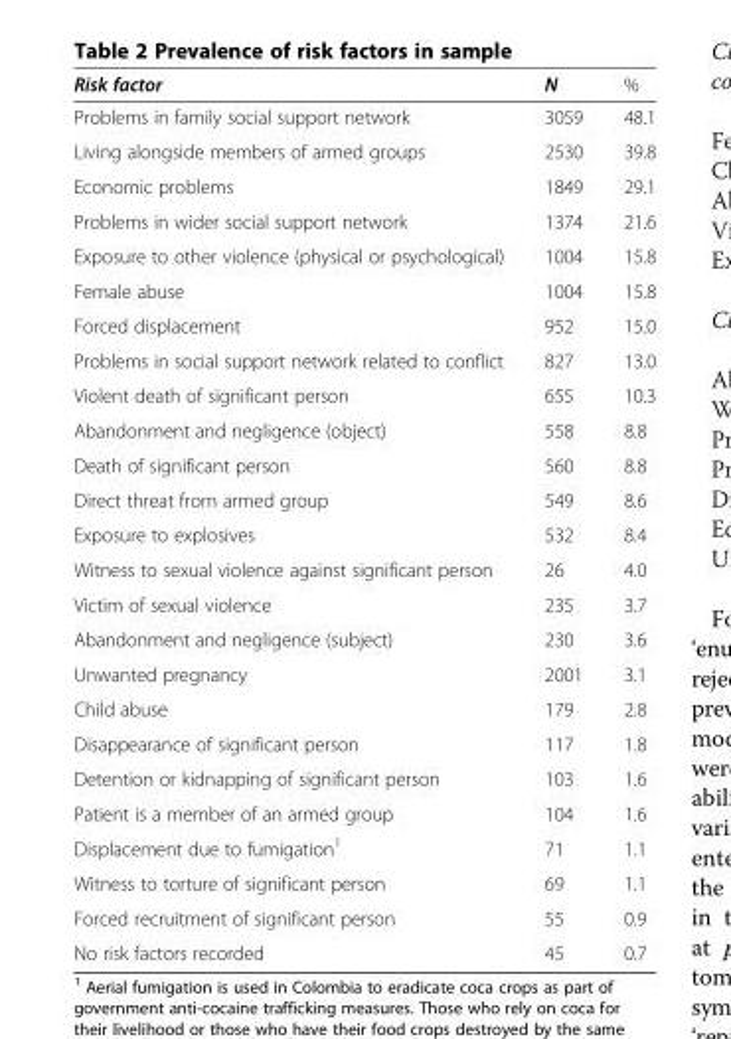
<table><thead><tr><td>Risk factor</td><td>N</td><td>%</td></tr></thead><tbody><tr><td>Problems in family social support network</td><td>3059</td><td>48.1</td></tr><tr><td>Living alongside members of armed groups</td><td>2530</td><td>39.8</td></tr><tr><td>Economic problems</td><td>1849</td><td>29.1</td></tr><tr><td>Problems in wider social support network</td><td>1374</td><td>21.6</td></tr><tr><td>Exposure to other violence (physical or psychological)</td><td>1004</td><td>15.8</td></tr><tr><td>Female abuse</td><td>1004</td><td>15.8</td></tr><tr><td>Forced displacement</td><td>952</td><td>15.0</td></tr><tr><td>Problems in social support network related to conflict</td><td>827</td><td>13.0</td></tr><tr><td>Violent death of significant person</td><td>655</td><td>10.3</td></tr><tr><td>Abandonment and negligence (object)</td><td>558</td><td>8.8</td></tr><tr><td>Death of significant person</td><td>560</td><td>8.8</td></tr><tr><td>Direct threat from armed group</td><td>549</td><td>8.6</td></tr><tr><td>Exposure to explosives</td><td>532</td><td>8.4</td></tr><tr><td>Witness to sexual violence against significant person</td><td>26</td><td>4.0</td></tr><tr><td>Victim of sexual violence</td><td>235</td><td>3.7</td></tr><tr><td>Abandonment and negligence (subject)</td><td>230</td><td>3.6</td></tr><tr><td>Unwanted pregnancy</td><td>2001</td><td>3.1</td></tr><tr><td>Child abuse</td><td>179</td><td>2.8</td></tr><tr><td>Disappearance of significant person</td><td>117</td><td>1.8</td></tr><tr><td>Detention or kidnapping of significant person</td><td>103</td><td>1.6</td></tr><tr><td>Patient is a member of an armed group</td><td>104</td><td>1.6</td></tr><tr><td>Displacement due to fumigation<sup>1</sup></td><td>71</td><td>1.1</td></tr><tr><td>Witness to torture of significant person</td><td>69</td><td>1.1</td></tr><tr><td>Forced recruitment of significant person</td><td>55</td><td>0.9</td></tr><tr><td>No risk factors recorded</td><td>45</td><td>0.7</td></tr></tbody></table>